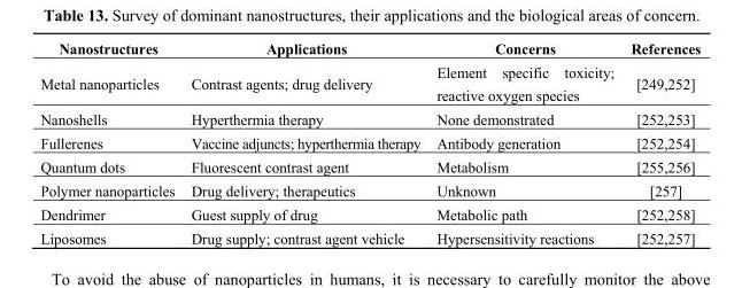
<table><thead><tr><td>Nanostructures</td><td>Applications</td><td>Concerns</td><td>References</td></tr></thead><tbody><tr><td>Metal nanoparticles</td><td>Contrast agents; drug delivery</td><td>Element specific toxicity; reactive oxygen species</td><td>[249,252]</td></tr><tr><td>Nanoshells</td><td>Hyperthermia therapy</td><td>None demonstrated</td><td>[252,253]</td></tr><tr><td>Fullerenes</td><td>Vaccine adjuncts; hyperthermia therapy</td><td>Antibody generation</td><td>[252,254]</td></tr><tr><td>Quantum dots</td><td>Fluorescent contrast agent</td><td>Metabolism</td><td>[255,256]</td></tr><tr><td>Polymer nanoparticles</td><td>Drug delivery; therapeutics</td><td>Unknown</td><td>[257]</td></tr><tr><td>Dendrimer</td><td>Guest supply of drug</td><td>Metabolic path</td><td>[252,258]</td></tr><tr><td>Liposomes</td><td>Drug supply; contrast agent vehicle</td><td>Hypersensitivity reactions</td><td>[252,257]</td></tr></tbody></table>